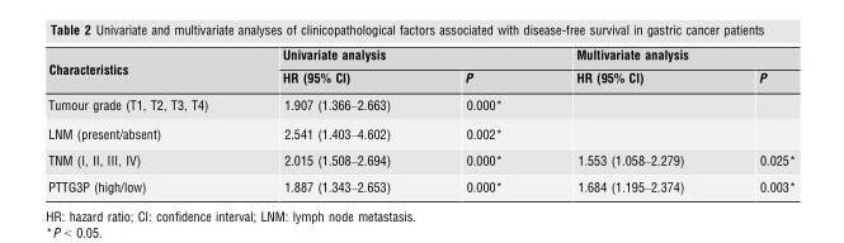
<table><thead><tr><td rowspan="2">Characteristics</td><td colspan="2">Univariate analysis</td><td colspan="2">Multivariate analysis</td></tr><tr><td>HR (95% CI)</td><td>P</td><td>HR (95% CI)</td><td>P</td></tr></thead><tbody><tr><td>Tumour grade (T1, T2, T3, T4)</td><td>1.907 (1.366–2.663)</td><td>0.000*</td><td></td><td></td></tr><tr><td>LNM (present/absent)</td><td>2.541 (1.403–4.602)</td><td>0.002*</td><td></td><td></td></tr><tr><td>TNM (I, II, III, IV)</td><td>2.015 (1.508–2.694)</td><td>0.000*</td><td>1.553 (1.058–2.279)</td><td>0.025*</td></tr><tr><td>PTTG3P (high/low)</td><td>1.887 (1.343–2.653)</td><td>0.000*</td><td>1.684 (1.195–2.374)</td><td>0.003*</td></tr></tbody></table>